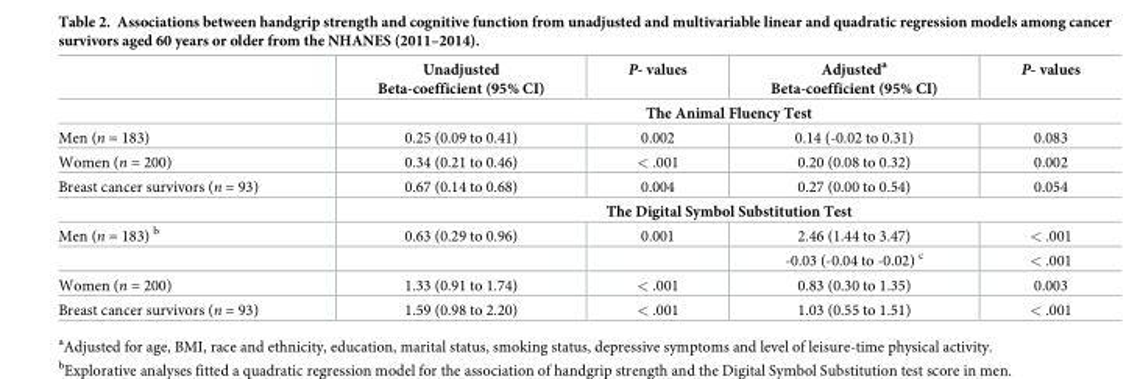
<table><thead><tr><td></td><td>Unadjusted Beta-coefficient (95% CI)</td><td>P- values</td><td>Adjusted<sup>a</sup> Beta-coefficient (95% CI)</td><td>P- values</td></tr></thead><tbody><tr><td></td><td colspan="4">The Animal Fluency Test</td></tr><tr><td>Men (n = 183)</td><td>0.25 (0.09 to 0.41)</td><td>0.002</td><td>0.14 (-0.02 to 0.31)</td><td>0.083</td></tr><tr><td>Women (n = 200)</td><td>0.34 (0.21 to 0.46)</td><td>&lt; .001</td><td>0.20 (0.08 to 0.32)</td><td>0.002</td></tr><tr><td rowspan="2">Breast cancer survivors (n = 93)</td><td>0.67 (0.14 to 0.68)</td><td>0.004</td><td>0.27 (0.00 to 0.54)</td><td>0.054</td></tr><tr><td colspan="4">The Digital Symbol Substitution Test</td></tr><tr><td rowspan="2">Men (n = 183) <sup>b</sup></td><td>0.63 (0.29 to 0.96)</td><td>0.001</td><td>2.46 (1.44 to 3.47)</td><td>&lt; .001</td></tr><tr><td></td><td></td><td>-0.03 (-0.04 to -0.02) <sup>c</sup></td><td>&lt; .001</td></tr><tr><td>Women (n = 200)</td><td>1.33 (0.91 to 1.74)</td><td>&lt; .001</td><td>0.83 (0.30 to 1.35)</td><td>0.003</td></tr><tr><td>Breast cancer survivors (n = 93)</td><td>1.59 (0.98 to 2.20)</td><td>&lt; .001</td><td>1.03 (0.55 to 1.51)</td><td>&lt; .001</td></tr></tbody></table>